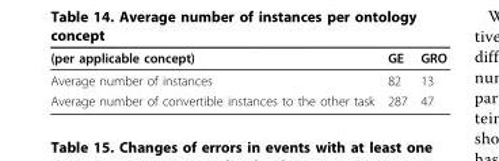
<table><thead><tr><td>(per applicable concept)</td><td>GE</td><td>GRO</td></tr></thead><tbody><tr><td>Average number of instances</td><td>82</td><td>13</td></tr><tr><td>Average number of convertible instances to the other task</td><td>287</td><td>47</td></tr></tbody></table>